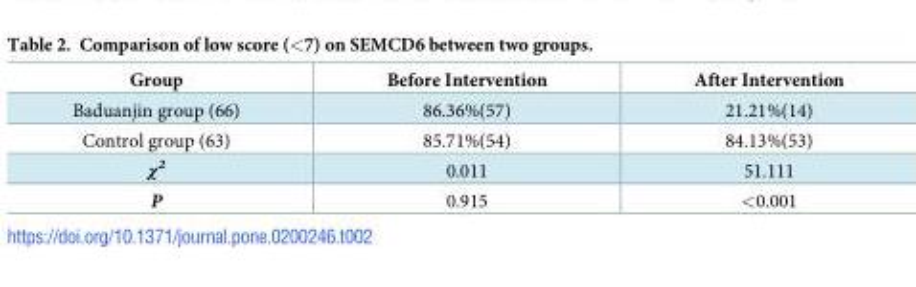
<table><thead><tr><td>Group</td><td>Before Intervention</td><td>After Intervention</td></tr></thead><tbody><tr><td>Baduanjin group (66)</td><td>86.36%(57)</td><td>21.21%(14)</td></tr><tr><td>Control group (63)</td><td>85.71%(54)</td><td>84.13%(53)</td></tr><tr><td>χ<sup>2</sup></td><td>0.011</td><td>51.111</td></tr><tr><td>P</td><td>0.915</td><td>&lt;0.001</td></tr></tbody></table>